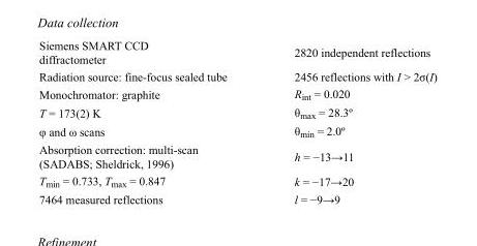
<table><tbody><tr><td>Siemens SMART CCD diffractometer</td><td>2820 independent reflections</td></tr><tr><td>Radiation source: fine-focus sealed tube</td><td>2456 reflections with I &gt; 2σ(I)</td></tr><tr><td>Monochromator: graphite</td><td>R<sub>int</sub> = 0.020</td></tr><tr><td>T = 173(2) K</td><td>θ<sub>max</sub> = 28.3º</td></tr><tr><td>φ and ω scans</td><td>θ<sub>min</sub> = 2.0º</td></tr><tr><td>Absorption correction: multi-scan (SADABS; Sheldrick, 1996)</td><td>h = −13→11</td></tr><tr><td>T<sub>min</sub> = 0.733, T<sub>max</sub> = 0.847</td><td>k = −17→20</td></tr><tr><td>7464 measured reflections</td><td>l = −9→9</td></tr></tbody></table>